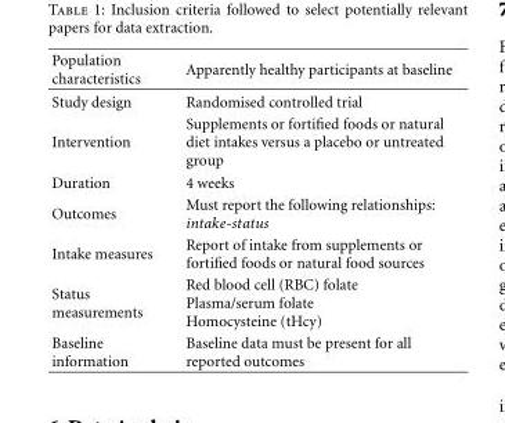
<table><thead><tr><td>Population characteristics</td><td>Apparently healthy participants at baseline</td></tr></thead><tbody><tr><td>Study design</td><td>Randomised controlled trial</td></tr><tr><td>Intervention</td><td>Supplements or fortified foods or natural diet intakes versus a placebo or untreated group</td></tr><tr><td>Duration</td><td>4 weeks</td></tr><tr><td>Outcomes</td><td>Must report the following relationships: intake-status</td></tr><tr><td>Intake measures</td><td>Report of intake from supplements or fortified foods or natural food sources</td></tr><tr><td>Status measurements</td><td>Red blood cell (RBC) folate Plasma/serum folate Homocysteine (tHcy)</td></tr><tr><td>Baseline information</td><td>Baseline data must be present for all reported outcomes</td></tr></tbody></table>